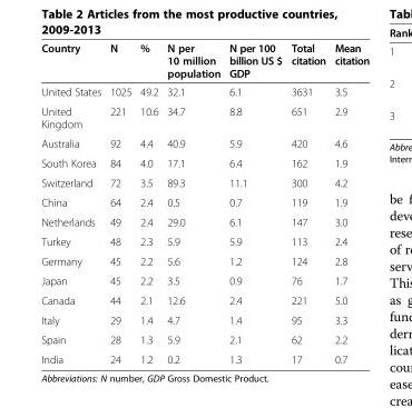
<table><thead><tr><td>Country</td><td>N</td><td>%</td><td>N per 10 million population</td><td>N per 100 billion US $ GDP</td><td>Total citation</td><td>Mean citation</td></tr></thead><tbody><tr><td>United States</td><td>1025</td><td>49.2</td><td>32.1</td><td>6.1</td><td>3631</td><td>3.5</td></tr><tr><td>United Kingdom</td><td>221</td><td>10.6</td><td>34.7</td><td>8.8</td><td>651</td><td>2.9</td></tr><tr><td>Australia</td><td>92</td><td>4.4</td><td>40.9</td><td>5.9</td><td>420</td><td>4.6</td></tr><tr><td>South Korea</td><td>84</td><td>4.0</td><td>17.1</td><td>6.4</td><td>162</td><td>1.9</td></tr><tr><td>Switzerland</td><td>72</td><td>3.5</td><td>89.3</td><td>11.1</td><td>300</td><td>4.2</td></tr><tr><td>China</td><td>64</td><td>2.4</td><td>0.5</td><td>0.7</td><td>119</td><td>1.9</td></tr><tr><td>Netherlands</td><td>49</td><td>2.4</td><td>29.0</td><td>6.1</td><td>147</td><td>3.0</td></tr><tr><td>Turkey</td><td>48</td><td>2.3</td><td>5.9</td><td>5.9</td><td>113</td><td>2.4</td></tr><tr><td>Germany</td><td>45</td><td>2.2</td><td>5.6</td><td>1.2</td><td>124</td><td>2.8</td></tr><tr><td>Japan</td><td>45</td><td>2.2</td><td>3.5</td><td>0.9</td><td>76</td><td>1.7</td></tr><tr><td>Canada</td><td>44</td><td>2.1</td><td>12.6</td><td>2.4</td><td>221</td><td>5.0</td></tr><tr><td>Italy</td><td>29</td><td>1.4</td><td>4.7</td><td>1.4</td><td>95</td><td>3.3</td></tr><tr><td>Spain</td><td>28</td><td>1.3</td><td>5.9</td><td>2.1</td><td>62</td><td>2.2</td></tr><tr><td>India</td><td>24</td><td>1.2</td><td>0.2</td><td>1.3</td><td>17</td><td>0.7</td></tr></tbody></table>